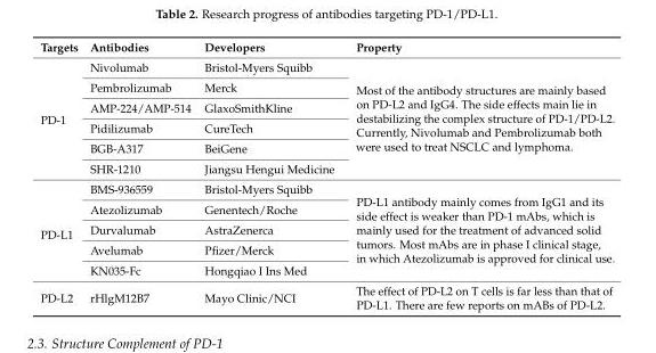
<table><thead><tr><td>Targets</td><td>Antibodies</td><td>Developers</td><td>Property</td></tr></thead><tbody><tr><td rowspan="6">PD-1</td><td>Nivolumab</td><td>Bristol-Myers Squibb</td><td rowspan="6">Most of the antibody structures are mainly based on PD-L2 and IgG4. The side effects main lie in destabilizing the complex structure of PD-1/PD-L2. Currently, Nivolumab and Pembrolizumab both were used to treat NSCLC and lymphoma.</td></tr><tr><td>Pembrolizumab</td><td>Merck</td></tr><tr><td>AMP-224/AMP-514</td><td>GlaxoSmithKline</td></tr><tr><td>Pidilizumab</td><td>CureTech</td></tr><tr><td>BGB-A317</td><td>BeiGene</td></tr><tr><td>SHR-1210</td><td>Jiangsu Hengui Medicine</td></tr><tr><td rowspan="5">PD-L1</td><td>BMS-936559</td><td>Bristol-Myers Squibb</td><td rowspan="5">PD-L1 antibody mainly comes from IgG1 and its side effect is weaker than PD-1 mAbs, which is mainly used for the treatment of advanced solid tumors. Most mAbs are in phase I clinical stage, in which Atezolizumab is approved for clinical use.</td></tr><tr><td>Atezolizumab</td><td>Genentech/Roche</td></tr><tr><td>Durvalumab</td><td>AstraZenerca</td></tr><tr><td>Avelumab</td><td>Pfizer/Merck</td></tr><tr><td>KN035-Fc</td><td>Hongqiao I Ins Med</td></tr><tr><td>PD-L2</td><td>rHlgM12B7</td><td>Mayo Clinic/NCI</td><td>The effect of PD-L2 on T cells is far less than that of PD-L1. There are few reports on mABs of PD-L2.</td></tr></tbody></table>